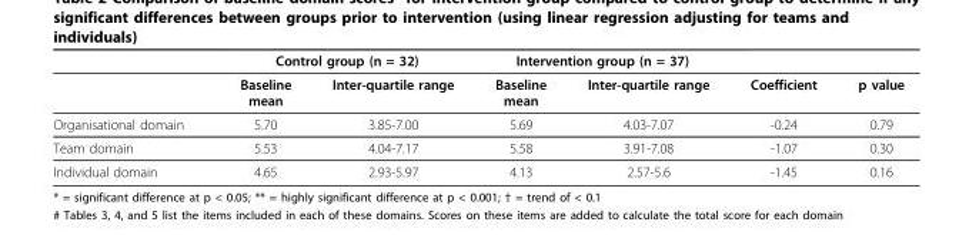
<table><thead><tr><td rowspan="2"></td><td colspan="2">Control group (n = 32)</td><td colspan="2">Intervention group (n = 37)</td><td rowspan="2">Coefficient</td><td rowspan="2">p value</td></tr><tr><td>Baseline mean</td><td>Inter-quartile range</td><td>Baseline mean</td><td>Inter-quartile range</td></tr></thead><tbody><tr><td>Organisational domain</td><td>5.70</td><td>3.85-7.00</td><td>5.69</td><td>4.03-7.07</td><td>-0.24</td><td>0.79</td></tr><tr><td>Team domain</td><td>5.53</td><td>4.04-7.17</td><td>5.58</td><td>3.91-7.08</td><td>-1.07</td><td>0.30</td></tr><tr><td>Individual domain</td><td>4.65</td><td>2.93-5.97</td><td>4.13</td><td>2.57-5.6</td><td>-1.45</td><td>0.16</td></tr></tbody></table>